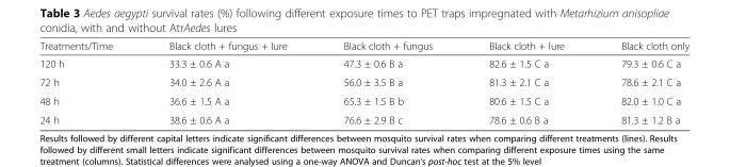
<table><thead><tr><td>Treatments/Time</td><td>Black cloth + fungus + lure</td><td>Black cloth + fungus</td><td>Black cloth + lure</td><td>Black cloth only</td></tr></thead><tbody><tr><td>120 h</td><td>33.3 ± 0.6 A a</td><td>47.3 ± 0.6 B a</td><td>82.6 ± 1.5 C a</td><td>79.3 ± 0.6 C a</td></tr><tr><td>72 h</td><td>34.0 ± 2.6 A a</td><td>56.0 ± 3.5 B a</td><td>81.3 ± 2.1 C a</td><td>78.6 ± 2.1 C a</td></tr><tr><td>48 h</td><td>36.6 ± 1.5 A a</td><td>65.3 ± 1.5 B b</td><td>80.6 ± 1.5 C a</td><td>82.0 ± 1.0 C a</td></tr><tr><td>24 h</td><td>38.6 ± 0.6 A a</td><td>76.6 ± 2.9 B c</td><td>78.6 ± 0.6 B a</td><td>81.3 ± 1.2 B a</td></tr></tbody></table>